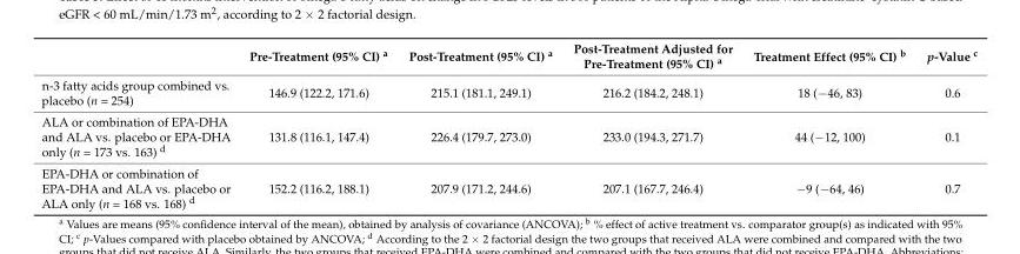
<table><thead><tr><td></td><td>Pre-Treatment (95% CI) <sup>a</sup></td><td>Post-Treatment (95% CI) <sup>a</sup></td><td>Post-Treatment Adjusted for Pre-Treatment (95% CI) <sup>a</sup></td><td>Treatment Effect (95% CI) <sup>b</sup></td><td>p-Value <sup>c</sup></td></tr></thead><tbody><tr><td>n-3 fatty acids group combined vs. placebo (n = 254)</td><td>146.9 (122.2, 171.6)</td><td>215.1 (181.1, 249.1)</td><td>216.2 (184.2, 248.1)</td><td>18 (−46, 83)</td><td>0.6</td></tr><tr><td>ALA or combination of EPA-DHA and ALA vs. placebo or EPA-DHA only (n = 173 vs. 163) <sup>d</sup></td><td>131.8 (116.1, 147.4)</td><td>226.4 (179.7, 273.0)</td><td>233.0 (194.3, 271.7)</td><td>44 (−12, 100)</td><td>0.1</td></tr><tr><td>EPA-DHA or combination of EPA-DHA and ALA vs. placebo or ALA only (n = 168 vs. 168) <sup>d</sup></td><td>152.2 (116.2, 188.1)</td><td>207.9 (171.2, 244.6)</td><td>207.1 (167.7, 246.4)</td><td>−9 (−64, 46)</td><td>0.7</td></tr></tbody></table>